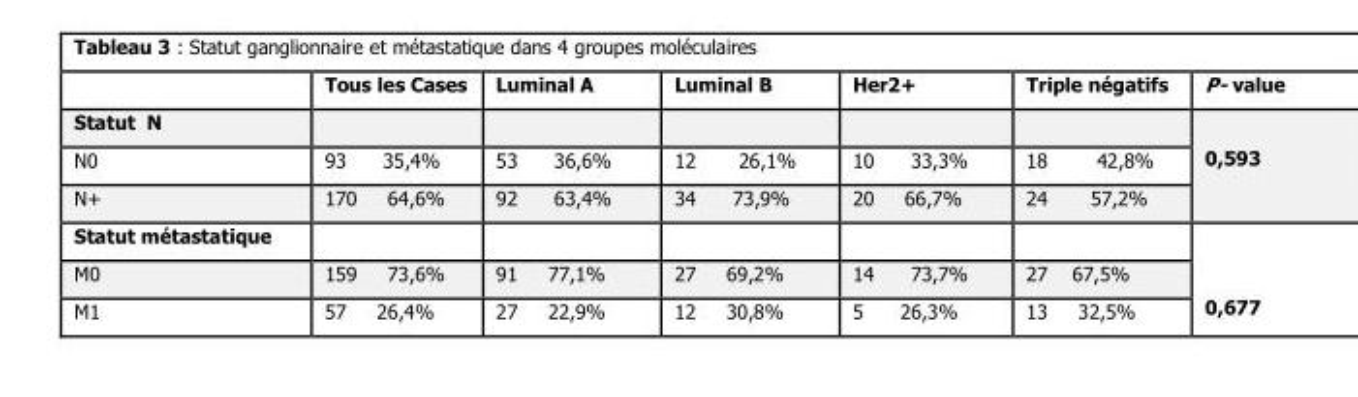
<table><thead><tr><td></td><td>Tous les Cases</td><td>Luminal A</td><td>Luminal B</td><td>Her2+</td><td>Triple négatifs</td><td>P- value</td></tr></thead><tbody><tr><td colspan="6">Statut N</td><td rowspan="3">0,593</td></tr><tr><td>N0</td><td>93 35,4%</td><td>53 36,6%</td><td>12 26,1%</td><td>10 33,3%</td><td>18 42,8%</td></tr><tr><td>N+</td><td>170 64,6%</td><td>92 63,4%</td><td>34 73,9%</td><td>20 66,7%</td><td>24 57,2%</td></tr><tr><td colspan="6">Statut métastatique</td><td rowspan="3">0,677</td></tr><tr><td>M0</td><td>159 73,6%</td><td>91 77,1%</td><td>27 69,2%</td><td>14 73,7%</td><td>27 67,5%</td></tr><tr><td>M1</td><td>57 26,4%</td><td>27 22,9%</td><td>12 30,8%</td><td>5 26,3%</td><td>13 32,5%</td></tr></tbody></table>